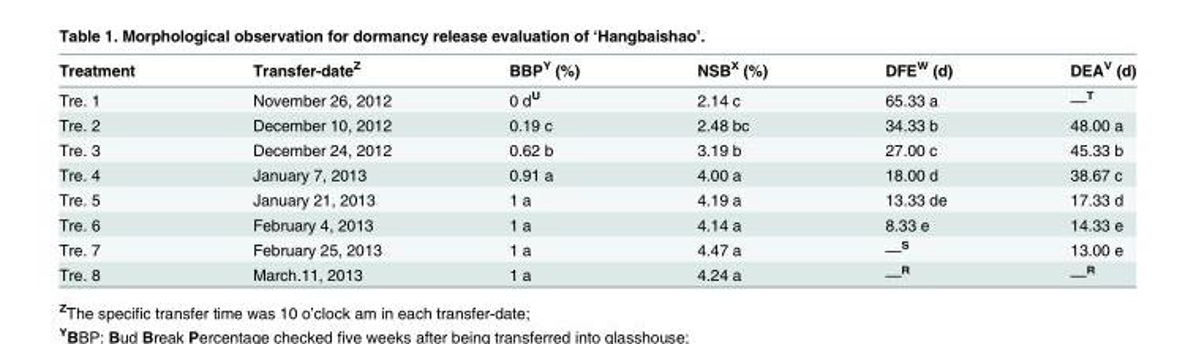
<table><thead><tr><td>Treatment</td><td>Transfer-date<sup>Z</sup></td><td>BBP<sup>Y</sup> (%)</td><td>NSB<sup>X</sup> (%)</td><td>DFE<sup>W</sup> (d)</td><td>DEA<sup>V</sup> (d)</td></tr></thead><tbody><tr><td>Tre. 1</td><td>November 26, 2012</td><td>0 d<sup>U</sup></td><td>2.14 c</td><td>65.33 a</td><td>—<sup>T</sup></td></tr><tr><td>Tre. 2</td><td>December 10, 2012</td><td>0.19 c</td><td>2.48 bc</td><td>34.33 b</td><td>48.00 a</td></tr><tr><td>Tre. 3</td><td>December 24, 2012</td><td>0.62 b</td><td>3.19 b</td><td>27.00 c</td><td>45.33 b</td></tr><tr><td>Tre. 4</td><td>January 7, 2013</td><td>0.91 a</td><td>4.00 a</td><td>18.00 d</td><td>38.67 c</td></tr><tr><td>Tre. 5</td><td>January 21, 2013</td><td>1 a</td><td>4.19 a</td><td>13.33 de</td><td>17.33 d</td></tr><tr><td>Tre. 6</td><td>February 4, 2013</td><td>1 a</td><td>4.14 a</td><td>8.33 e</td><td>14.33 e</td></tr><tr><td>Tre. 7</td><td>February 25, 2013</td><td>1 a</td><td>4.47 a</td><td>—<sup>S</sup></td><td>13.00 e</td></tr><tr><td>Tre. 8</td><td>March.11, 2013</td><td>1 a</td><td>4.24 a</td><td>—<sup>R</sup></td><td>—<sup>R</sup></td></tr></tbody></table>